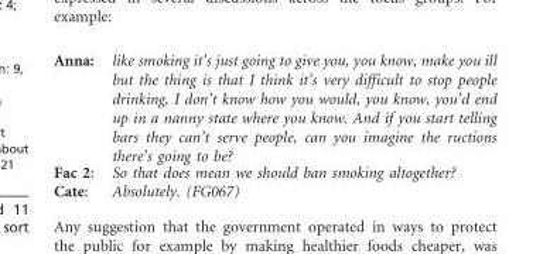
<table><tbody><tr><td>Anna:</td><td>like smoking it’s just going to give you, you know, make you ill but the thing is that I think it’s very difficult to stop people drinking, I don’t know how you would, you know, you’d end up in a nanny state where you know. And if you start telling bars they can’t serve people, can you imagine the ructions there’s going to be?</td></tr><tr><td>Fac 2:</td><td>So that does mean we should ban smoking altogether?</td></tr><tr><td>Cate:</td><td>Absolutely. (FG067)</td></tr></tbody></table>